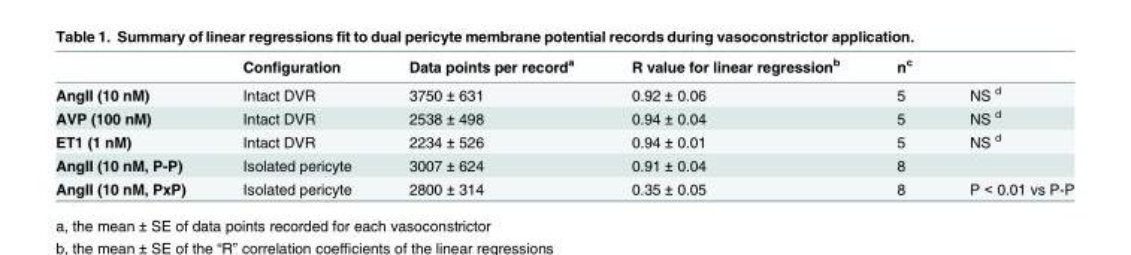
<table><thead><tr><td></td><td>Configuration</td><td>Data points per record<sup>a</sup></td><td>R value for linear regression<sup>b</sup></td><td>n<sup>c</sup></td><td></td></tr></thead><tbody><tr><td>AngII (10 nM)</td><td>Intact DVR</td><td>3750 ± 631</td><td>0.92 ± 0.06</td><td>5</td><td>NS <sup>d</sup></td></tr><tr><td>AVP (100 nM)</td><td>Intact DVR</td><td>2538 ± 498</td><td>0.94 ± 0.04</td><td>5</td><td>NS <sup>d</sup></td></tr><tr><td>ET1 (1 nM)</td><td>Intact DVR</td><td>2234 ± 526</td><td>0.94 ± 0.01</td><td>5</td><td>NS <sup>d</sup></td></tr><tr><td>AngII (10 nM, P-P)</td><td>Isolated pericyte</td><td>3007 ± 624</td><td>0.91 ± 0.04</td><td>8</td><td></td></tr><tr><td>AngII (10 nM, PxP)</td><td>Isolated pericyte</td><td>2800 ± 314</td><td>0.35 ± 0.05</td><td>8</td><td>P &lt; 0.01 vs P-P</td></tr></tbody></table>